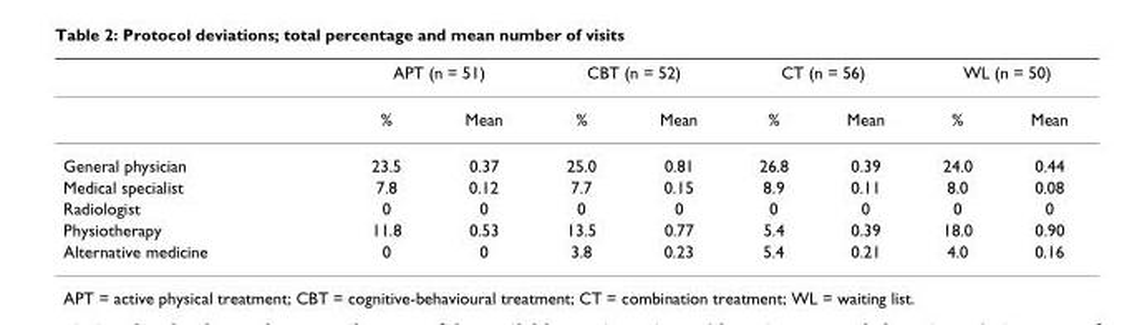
<table><thead><tr><td rowspan="2"></td><td colspan="2">APT (n = 51)</td><td colspan="2">CBT (n = 52)</td><td colspan="2">CT (n = 56)</td><td colspan="2">WL (n = 50)</td></tr><tr><td>%</td><td>Mean</td><td>%</td><td>Mean</td><td>%</td><td>Mean</td><td>%</td><td>Mean</td></tr></thead><tbody><tr><td>General physician</td><td>23.5</td><td>0.37</td><td>25.0</td><td>0.81</td><td>26.8</td><td>0.39</td><td>24.0</td><td>0.44</td></tr><tr><td>Medical specialist</td><td>7.8</td><td>0.12</td><td>7.7</td><td>0.15</td><td>8.9</td><td>0.11</td><td>8.0</td><td>0.08</td></tr><tr><td>Radiologist</td><td>0</td><td>0</td><td>0</td><td>0</td><td>0</td><td>0</td><td>0</td><td>0</td></tr><tr><td>Physiotherapy</td><td>11.8</td><td>0.53</td><td>13.5</td><td>0.77</td><td>5.4</td><td>0.39</td><td>18.0</td><td>0.90</td></tr><tr><td>Alternative medicine</td><td>0</td><td>0</td><td>3.8</td><td>0.23</td><td>5.4</td><td>0.21</td><td>4.0</td><td>0.16</td></tr></tbody></table>